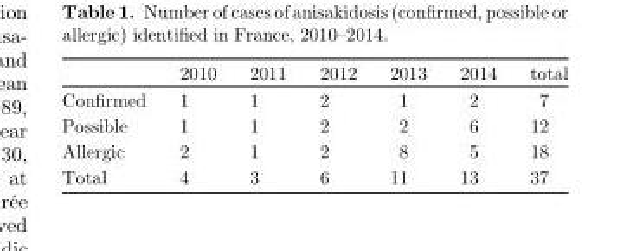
<table><thead><tr><td></td><td>2010</td><td>2011</td><td>2012</td><td>2013</td><td>2014</td><td>total</td></tr></thead><tbody><tr><td>Confirmed</td><td>1</td><td>1</td><td>2</td><td>1</td><td>2</td><td>7</td></tr><tr><td>Possible</td><td>1</td><td>1</td><td>2</td><td>2</td><td>6</td><td>12</td></tr><tr><td>Allergic</td><td>2</td><td>1</td><td>2</td><td>8</td><td>5</td><td>18</td></tr><tr><td>Total</td><td>4</td><td>3</td><td>6</td><td>11</td><td>13</td><td>37</td></tr></tbody></table>